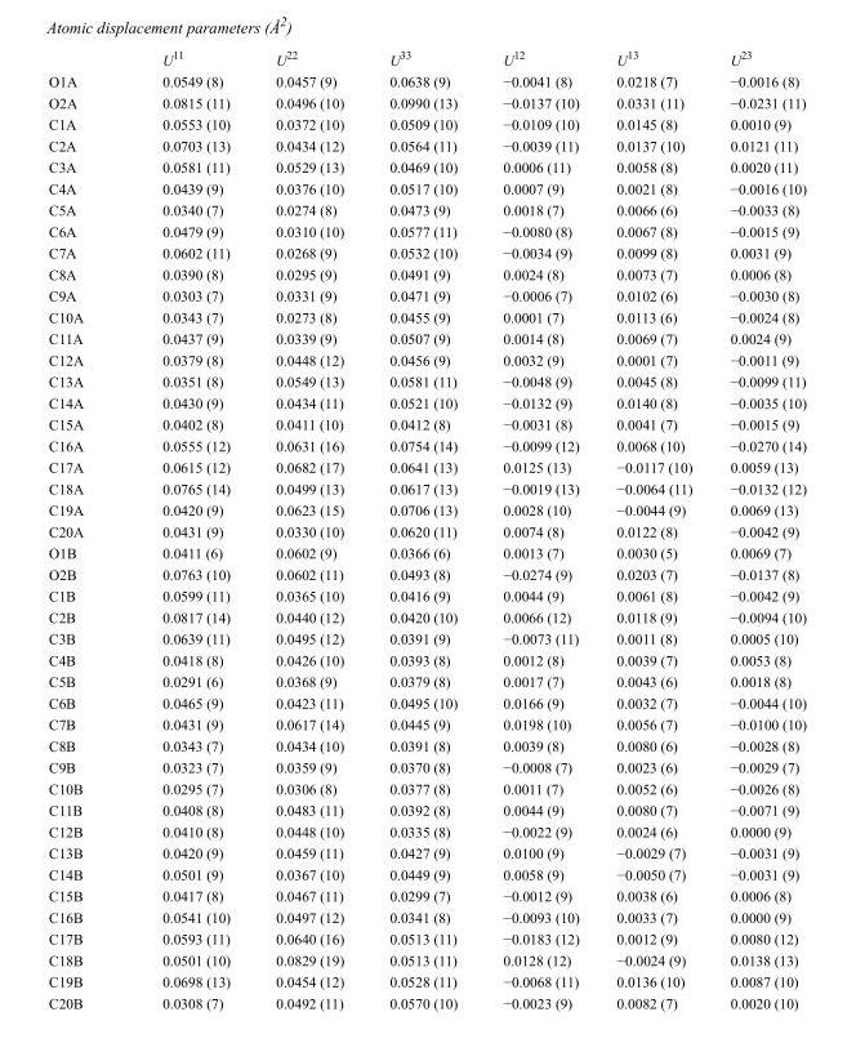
<table><thead><tr><td></td><td>U<sup>11</sup></td><td>U<sup>22</sup></td><td>U<sup>33</sup></td><td>U<sup>12</sup></td><td>U<sup>13</sup></td><td>U<sup>23</sup></td></tr></thead><tbody><tr><td>O1A</td><td>0.0549 (8)</td><td>0.0457 (9)</td><td>0.0638 (9)</td><td>−0.0041 (8)</td><td>0.0218 (7)</td><td>−0.0016 (8)</td></tr><tr><td>O2A</td><td>0.0815 (11)</td><td>0.0496 (10)</td><td>0.0990 (13)</td><td>−0.0137 (10)</td><td>0.0331 (11)</td><td>−0.0231 (11)</td></tr><tr><td>C1A</td><td>0.0553 (10)</td><td>0.0372 (10)</td><td>0.0509 (10)</td><td>−0.0109 (10)</td><td>0.0145 (8)</td><td>0.0010 (9)</td></tr><tr><td>C2A</td><td>0.0703 (13)</td><td>0.0434 (12)</td><td>0.0564 (11)</td><td>−0.0039 (11)</td><td>0.0137 (10)</td><td>0.0121 (11)</td></tr><tr><td>C3A</td><td>0.0581 (11)</td><td>0.0529 (13)</td><td>0.0469 (10)</td><td>0.0006 (11)</td><td>0.0058 (8)</td><td>0.0020 (11)</td></tr><tr><td>C4A</td><td>0.0439 (9)</td><td>0.0376 (10)</td><td>0.0517 (10)</td><td>0.0007 (9)</td><td>0.0021 (8)</td><td>−0.0016 (10)</td></tr><tr><td>C5A</td><td>0.0340 (7)</td><td>0.0274 (8)</td><td>0.0473 (9)</td><td>0.0018 (7)</td><td>0.0066 (6)</td><td>−0.0033 (8)</td></tr><tr><td>C6A</td><td>0.0479 (9)</td><td>0.0310 (10)</td><td>0.0577 (11)</td><td>−0.0080 (8)</td><td>0.0067 (8)</td><td>−0.0015 (9)</td></tr><tr><td>C7A</td><td>0.0602 (11)</td><td>0.0268 (9)</td><td>0.0532 (10)</td><td>−0.0034 (9)</td><td>0.0099 (8)</td><td>0.0031 (9)</td></tr><tr><td>C8A</td><td>0.0390 (8)</td><td>0.0295 (9)</td><td>0.0491 (9)</td><td>0.0024 (8)</td><td>0.0073 (7)</td><td>0.0006 (8)</td></tr><tr><td>C9A</td><td>0.0303 (7)</td><td>0.0331 (9)</td><td>0.0471 (9)</td><td>−0.0006 (7)</td><td>0.0102 (6)</td><td>−0.0030 (8)</td></tr><tr><td>C10A</td><td>0.0343 (7)</td><td>0.0273 (8)</td><td>0.0455 (9)</td><td>0.0001 (7)</td><td>0.0113 (6)</td><td>−0.0024 (8)</td></tr><tr><td>C11A</td><td>0.0437 (9)</td><td>0.0339 (9)</td><td>0.0507 (9)</td><td>0.0014 (8)</td><td>0.0069 (7)</td><td>0.0024 (9)</td></tr><tr><td>C12A</td><td>0.0379 (8)</td><td>0.0448 (12)</td><td>0.0456 (9)</td><td>0.0032 (9)</td><td>0.0001 (7)</td><td>−0.0011 (9)</td></tr><tr><td>C13A</td><td>0.0351 (8)</td><td>0.0549 (13)</td><td>0.0581 (11)</td><td>−0.0048 (9)</td><td>0.0045 (8)</td><td>−0.0099 (11)</td></tr><tr><td>C14A</td><td>0.0430 (9)</td><td>0.0434 (11)</td><td>0.0521 (10)</td><td>−0.0132 (9)</td><td>0.0140 (8)</td><td>−0.0035 (10)</td></tr><tr><td>C15A</td><td>0.0402 (8)</td><td>0.0411 (10)</td><td>0.0412 (8)</td><td>−0.0031 (8)</td><td>0.0041 (7)</td><td>−0.0015 (9)</td></tr><tr><td>C16A</td><td>0.0555 (12)</td><td>0.0631 (16)</td><td>0.0754 (14)</td><td>−0.0099 (12)</td><td>0.0068 (10)</td><td>−0.0270 (14)</td></tr><tr><td>C17A</td><td>0.0615 (12)</td><td>0.0682 (17)</td><td>0.0641 (13)</td><td>0.0125 (13)</td><td>−0.0117 (10)</td><td>0.0059 (13)</td></tr><tr><td>C18A</td><td>0.0765 (14)</td><td>0.0499 (13)</td><td>0.0617 (13)</td><td>−0.0019 (13)</td><td>−0.0064 (11)</td><td>−0.0132 (12)</td></tr><tr><td>C19A</td><td>0.0420 (9)</td><td>0.0623 (15)</td><td>0.0706 (13)</td><td>0.0028 (10)</td><td>−0.0044 (9)</td><td>0.0069 (13)</td></tr><tr><td>C20A</td><td>0.0431 (9)</td><td>0.0330 (10)</td><td>0.0620 (11)</td><td>0.0074 (8)</td><td>0.0122 (8)</td><td>−0.0042 (9)</td></tr><tr><td>O1B</td><td>0.0411 (6)</td><td>0.0602 (9)</td><td>0.0366 (6)</td><td>0.0013 (7)</td><td>0.0030 (5)</td><td>0.0069 (7)</td></tr><tr><td>O2B</td><td>0.0763 (10)</td><td>0.0602 (11)</td><td>0.0493 (8)</td><td>−0.0274 (9)</td><td>0.0203 (7)</td><td>−0.0137 (8)</td></tr><tr><td>C1B</td><td>0.0599 (11)</td><td>0.0365 (10)</td><td>0.0416 (9)</td><td>0.0044 (9)</td><td>0.0061 (8)</td><td>−0.0042 (9)</td></tr><tr><td>C2B</td><td>0.0817 (14)</td><td>0.0440 (12)</td><td>0.0420 (10)</td><td>0.0066 (12)</td><td>0.0118 (9)</td><td>−0.0094 (10)</td></tr><tr><td>C3B</td><td>0.0639 (11)</td><td>0.0495 (12)</td><td>0.0391 (9)</td><td>−0.0073 (11)</td><td>0.0011 (8)</td><td>0.0005 (10)</td></tr><tr><td>C4B</td><td>0.0418 (8)</td><td>0.0426 (10)</td><td>0.0393 (8)</td><td>0.0012 (8)</td><td>0.0039 (7)</td><td>0.0053 (8)</td></tr><tr><td>C5B</td><td>0.0291 (6)</td><td>0.0368 (9)</td><td>0.0379 (8)</td><td>0.0017 (7)</td><td>0.0043 (6)</td><td>0.0018 (8)</td></tr><tr><td>C6B</td><td>0.0465 (9)</td><td>0.0423 (11)</td><td>0.0495 (10)</td><td>0.0166 (9)</td><td>0.0032 (7)</td><td>−0.0044 (10)</td></tr><tr><td>C7B</td><td>0.0431 (9)</td><td>0.0617 (14)</td><td>0.0445 (9)</td><td>0.0198 (10)</td><td>0.0056 (7)</td><td>−0.0100 (10)</td></tr><tr><td>C8B</td><td>0.0343 (7)</td><td>0.0434 (10)</td><td>0.0391 (8)</td><td>0.0039 (8)</td><td>0.0080 (6)</td><td>−0.0028 (8)</td></tr><tr><td>C9B</td><td>0.0323 (7)</td><td>0.0359 (9)</td><td>0.0370 (8)</td><td>−0.0008 (7)</td><td>0.0023 (6)</td><td>−0.0029 (7)</td></tr><tr><td>C10B</td><td>0.0295 (7)</td><td>0.0306 (8)</td><td>0.0377 (8)</td><td>0.0011 (7)</td><td>0.0052 (6)</td><td>−0.0026 (8)</td></tr><tr><td>C11B</td><td>0.0408 (8)</td><td>0.0483 (11)</td><td>0.0392 (8)</td><td>0.0044 (9)</td><td>0.0080 (7)</td><td>−0.0071 (9)</td></tr><tr><td>C12B</td><td>0.0410 (8)</td><td>0.0448 (10)</td><td>0.0335 (8)</td><td>−0.0022 (9)</td><td>0.0024 (6)</td><td>0.0000 (9)</td></tr><tr><td>C13B</td><td>0.0420 (9)</td><td>0.0459 (11)</td><td>0.0427 (9)</td><td>0.0100 (9)</td><td>−0.0029 (7)</td><td>−0.0031 (9)</td></tr><tr><td>C14B</td><td>0.0501 (9)</td><td>0.0367 (10)</td><td>0.0449 (9)</td><td>0.0058 (9)</td><td>−0.0050 (7)</td><td>−0.0031 (9)</td></tr><tr><td>C15B</td><td>0.0417 (8)</td><td>0.0467 (11)</td><td>0.0299 (7)</td><td>−0.0012 (9)</td><td>0.0038 (6)</td><td>0.0006 (8)</td></tr><tr><td>C16B</td><td>0.0541 (10)</td><td>0.0497 (12)</td><td>0.0341 (8)</td><td>−0.0093 (10)</td><td>0.0033 (7)</td><td>0.0000 (9)</td></tr><tr><td>C17B</td><td>0.0593 (11)</td><td>0.0640 (16)</td><td>0.0513 (11)</td><td>−0.0183 (12)</td><td>0.0012 (9)</td><td>0.0080 (12)</td></tr><tr><td>C18B</td><td>0.0501 (10)</td><td>0.0829 (19)</td><td>0.0513 (11)</td><td>0.0128 (12)</td><td>−0.0024 (9)</td><td>0.0138 (13)</td></tr><tr><td>C19B</td><td>0.0698 (13)</td><td>0.0454 (12)</td><td>0.0528 (11)</td><td>−0.0068 (11)</td><td>0.0136 (10)</td><td>0.0087 (10)</td></tr><tr><td>C20B</td><td>0.0308 (7)</td><td>0.0492 (11)</td><td>0.0570 (10)</td><td>−0.0023 (9)</td><td>0.0082 (7)</td><td>0.0020 (10)</td></tr></tbody></table>